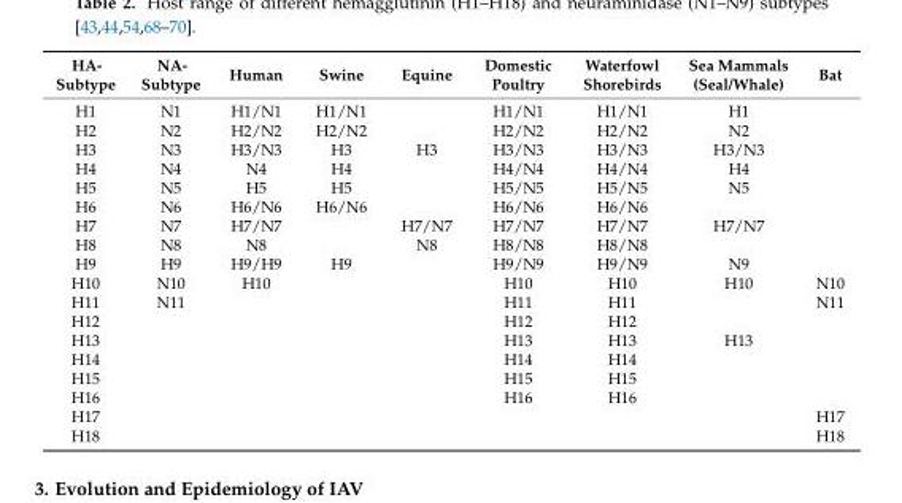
<table><thead><tr><td>HA- Subtype</td><td>NA- Subtype</td><td>Human</td><td>Swine</td><td>Equine</td><td>Domestic Poultry</td><td>Waterfowl Shorebirds</td><td>Sea Mammals (Seal/Whale)</td><td>Bat</td></tr></thead><tbody><tr><td>H1</td><td>N1</td><td>H1/N1</td><td>H1/N1</td><td></td><td>H1/N1</td><td>H1/N1</td><td>H1</td><td></td></tr><tr><td>H2</td><td>N2</td><td>H2/N2</td><td>H2/N2</td><td></td><td>H2/N2</td><td>H2/N2</td><td>N2</td><td></td></tr><tr><td>H3</td><td>N3</td><td>H3/N3</td><td>H3</td><td>H3</td><td>H3/N3</td><td>H3/N3</td><td>H3/N3</td><td></td></tr><tr><td>H4</td><td>N4</td><td>N4</td><td>H4</td><td></td><td>H4/N4</td><td>H4/N4</td><td>H4</td><td></td></tr><tr><td>H5</td><td>N5</td><td>H5</td><td>H5</td><td></td><td>H5/N5</td><td>H5/N5</td><td>N5</td><td></td></tr><tr><td>H6</td><td>N6</td><td>H6/N6</td><td>H6/N6</td><td></td><td>H6/N6</td><td>H6/N6</td><td></td><td></td></tr><tr><td>H7</td><td>N7</td><td>H7/N7</td><td></td><td>H7/N7</td><td>H7/N7</td><td>H7/N7</td><td>H7/N7</td><td></td></tr><tr><td>H8</td><td>N8</td><td>N8</td><td></td><td>N8</td><td>H8/N8</td><td>H8/N8</td><td></td><td></td></tr><tr><td>H9</td><td>H9</td><td>H9/H9</td><td>H9</td><td></td><td>H9/N9</td><td>H9/N9</td><td>N9</td><td></td></tr><tr><td>H10</td><td>N10</td><td>H10</td><td></td><td></td><td>H10</td><td>H10</td><td>H10</td><td>N10</td></tr><tr><td>H11</td><td>N11</td><td></td><td></td><td></td><td>H11</td><td>H11</td><td></td><td>N11</td></tr><tr><td>H12</td><td></td><td></td><td></td><td></td><td>H12</td><td>H12</td><td></td><td></td></tr><tr><td>H13</td><td></td><td></td><td></td><td></td><td>H13</td><td>H13</td><td>H13</td><td></td></tr><tr><td>H14</td><td></td><td></td><td></td><td></td><td>H14</td><td>H14</td><td></td><td></td></tr><tr><td>H15</td><td></td><td></td><td></td><td></td><td>H15</td><td>H15</td><td></td><td></td></tr><tr><td>H16</td><td></td><td></td><td></td><td></td><td>H16</td><td>H16</td><td></td><td></td></tr><tr><td>H17</td><td></td><td></td><td></td><td></td><td></td><td></td><td></td><td>H17</td></tr><tr><td>H18</td><td></td><td></td><td></td><td></td><td></td><td></td><td></td><td>H18</td></tr></tbody></table>